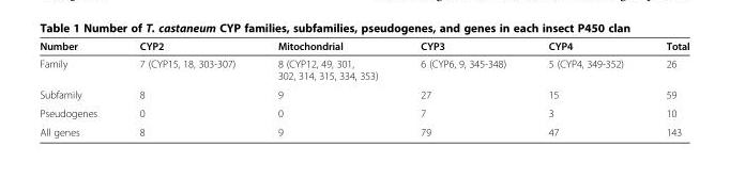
<table><thead><tr><td>Number</td><td>CYP2</td><td>Mitochondrial</td><td>CYP3</td><td>CYP4</td><td>Total</td></tr></thead><tbody><tr><td>Family</td><td>7 (CYP15, 18, 303-307)</td><td>8 (CYP12, 49, 301, 302, 314, 315, 334, 353)</td><td>6 (CYP6, 9, 345-348)</td><td>5 (CYP4, 349-352)</td><td>26</td></tr><tr><td>Subfamily</td><td>8</td><td>9</td><td>27</td><td>15</td><td>59</td></tr><tr><td>Pseudogenes</td><td>0</td><td>0</td><td>7</td><td>3</td><td>10</td></tr><tr><td>All genes</td><td>8</td><td>9</td><td>79</td><td>47</td><td>143</td></tr></tbody></table>